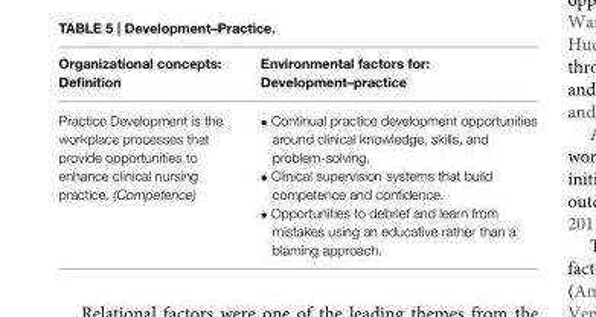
<table><thead><tr><td>Organizational concepts: Definition</td><td>Environmental factors for: Development–practice</td></tr></thead><tbody><tr><td>Practice Development is the workplace processes that provide opportunities to enhance clinical nursing practice. (Competence)</td><td>• Continual practice development opportunities around clinical knowledge, skills, and problem-solving. • Clinical supervision systems that build competence and confidence. • Opportunities to debrief and learn from mistakes using an educative rather than a blaming approach.</td></tr></tbody></table>